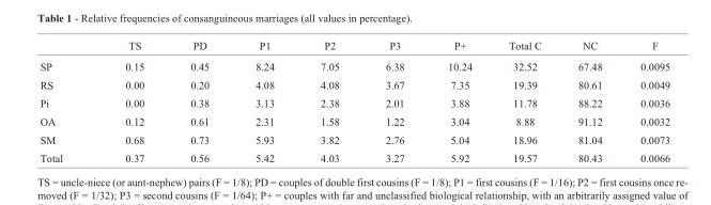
<table><thead><tr><td></td><td>TS</td><td>PD</td><td>P1</td><td>P2</td><td>P3</td><td>P+</td><td>Total C</td><td>NC</td><td>F</td></tr></thead><tbody><tr><td>SP</td><td>0.15</td><td>0.45</td><td>8.24</td><td>7.05</td><td>6.38</td><td>10.24</td><td>32.52</td><td>67.48</td><td>0.0095</td></tr><tr><td>RS</td><td>0.00</td><td>0.20</td><td>4.08</td><td>4.08</td><td>3.67</td><td>7.35</td><td>19.39</td><td>80.61</td><td>0.0049</td></tr><tr><td>Pi</td><td>0.00</td><td>0.38</td><td>3.13</td><td>2.38</td><td>2.01</td><td>3.88</td><td>11.78</td><td>88.22</td><td>0.0036</td></tr><tr><td>OA</td><td>0.12</td><td>0.61</td><td>2.31</td><td>1.58</td><td>1.22</td><td>3.04</td><td>8.88</td><td>91.12</td><td>0.0032</td></tr><tr><td>SM</td><td>0.68</td><td>0.73</td><td>5.93</td><td>3.82</td><td>2.76</td><td>5.04</td><td>18.96</td><td>81.04</td><td>0.0073</td></tr><tr><td>Total</td><td>0.37</td><td>0.56</td><td>5.42</td><td>4.03</td><td>3.27</td><td>5.92</td><td>19.57</td><td>80.43</td><td>0.0066</td></tr></tbody></table>